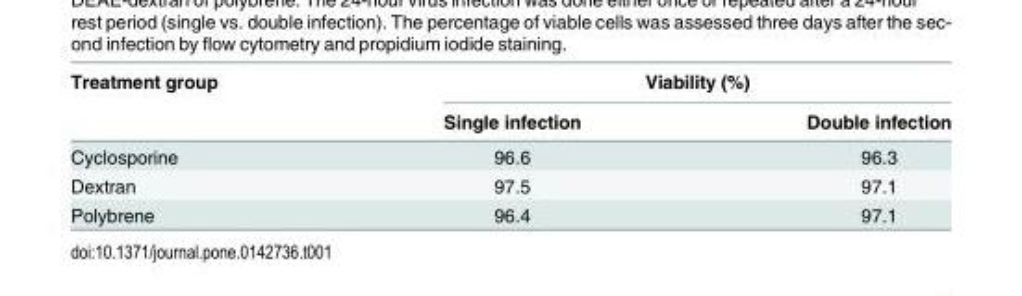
<table><thead><tr><td rowspan="2">Treatment group</td><td colspan="2">Viability (%)</td></tr><tr><td>Single infection</td><td>Double infection</td></tr></thead><tbody><tr><td>Cyclosporine</td><td>96.6</td><td>96.3</td></tr><tr><td>Dextran</td><td>97.5</td><td>97.1</td></tr><tr><td>Polybrene</td><td>96.4</td><td>97.1</td></tr></tbody></table>